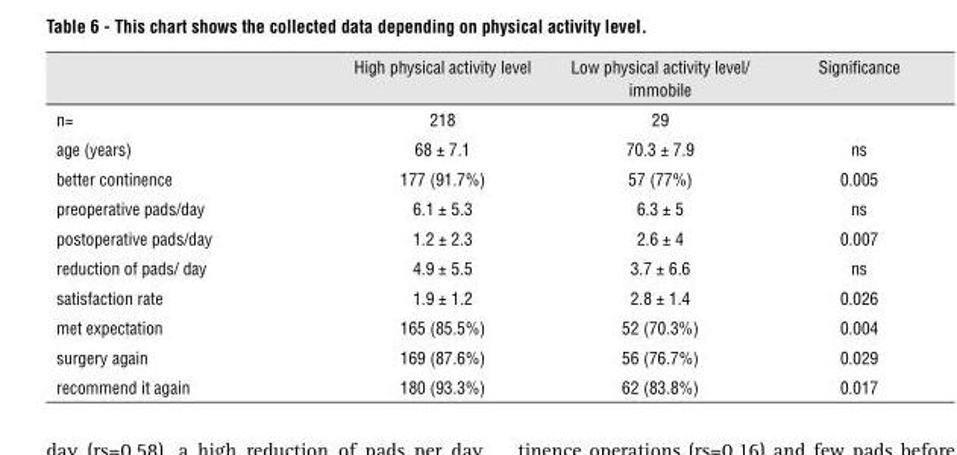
<table><thead><tr><td></td><td>High physical activity level</td><td>Low physical activity level/ immobile</td><td>Significance</td></tr></thead><tbody><tr><td>n=</td><td>218</td><td>29</td><td></td></tr><tr><td>age (years)</td><td>68 ± 7.1</td><td>70.3 ± 7.9</td><td>ns</td></tr><tr><td>better continence</td><td>177 (91.7%)</td><td>57 (77%)</td><td>0.005</td></tr><tr><td>preoperative pads/day</td><td>6.1 ± 5.3</td><td>6.3 ± 5</td><td>ns</td></tr><tr><td>postoperative pads/day</td><td>1.2 ± 2.3</td><td>2.6 ± 4</td><td>0.007</td></tr><tr><td>reduction of pads/ day</td><td>4.9 ± 5.5</td><td>3.7 ± 6.6</td><td>ns</td></tr><tr><td>satisfaction rate</td><td>1.9 ± 1.2</td><td>2.8 ± 1.4</td><td>0.026</td></tr><tr><td>met expectation</td><td>165 (85.5%)</td><td>52 (70.3%)</td><td>0.004</td></tr><tr><td>surgery again</td><td>169 (87.6%)</td><td>56 (76.7%)</td><td>0.029</td></tr><tr><td>recommend it again</td><td>180 (93.3%)</td><td>62 (83.8%)</td><td>0.017</td></tr></tbody></table>